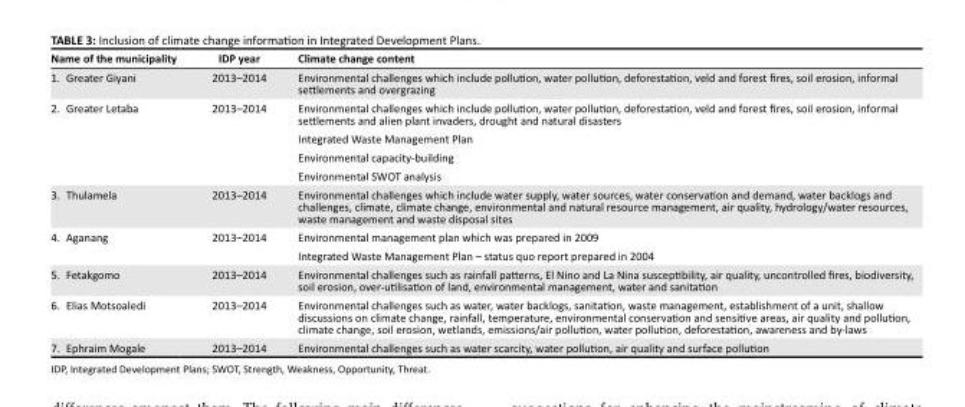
<table><thead><tr><td>Name of the municipality</td><td>IDP year</td><td>Climate change content</td></tr></thead><tbody><tr><td>1. Greater Giyani</td><td>2013–2014</td><td>Environmental challenges which include pollution, water pollution, deforestation, veld and forest fires, soil erosion, informal settlements and overgrazing</td></tr><tr><td>2. Greater Letaba</td><td>2013–2014</td><td>Environmental challenges which include pollution, water pollution, deforestation, veld and forest fires, soil erosion, informal settlements and alien plant invaders, drought and natural disasters Integrated Waste Management Plan Environmental capacity-building Environmental SWOT analysis</td></tr><tr><td>3. Thulamela</td><td>2013–2014</td><td>Environmental challenges which include water supply, water sources, water conservation and demand, water backlogs and challenges, climate, climate change, environmental and natural resource management, air quality, hydrology/water resources, waste management and waste disposal sites</td></tr><tr><td>4. Aganang</td><td>2013–2014</td><td>Environmental management plan which was prepared in 2009 Integrated Waste Management Plan – status quo report prepared in 2004</td></tr><tr><td>5. Fetakgomo</td><td>2013–2014</td><td>Environmental challenges such as rainfall patterns, El Nino and La Nina susceptibility, air quality, uncontrolled fires, biodiversity, soil erosion, over-utilisation of land, environmental management, water and sanitation</td></tr><tr><td>6. Elias Motsoaledi</td><td>2013–2014</td><td>Environmental challenges such as water, water backlogs, sanitation, waste management, establishment of a unit, shallow discussions on climate change, rainfall, temperature, environmental conservation and sensitive areas, air quality and pollution, climate change, soil erosion, wetlands, emissions/air pollution, water pollution, deforestation, awareness and by-laws</td></tr><tr><td>7. Ephraim Mogale</td><td>2013–2014</td><td>Environmental challenges such as water scarcity, water pollution, air quality and surface pollution</td></tr></tbody></table>